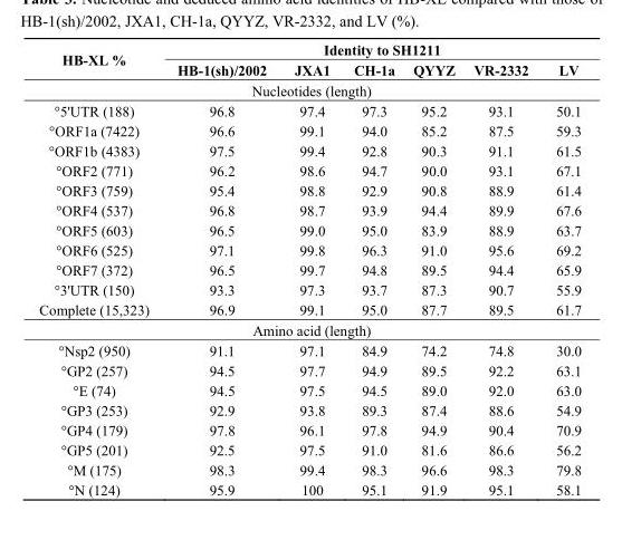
<table><thead><tr><td rowspan="2">HB-XL %</td><td colspan="6">Identity to SH1211</td></tr><tr><td>HB-1(sh)/2002</td><td>JXA1</td><td>CH-1a</td><td>QYYZ</td><td>VR-2332</td><td>LV</td></tr></thead><tbody><tr><td colspan="7">Nucleotides (length)</td></tr><tr><td>°5&#x27;UTR (188)</td><td>96.8</td><td>97.4</td><td>97.3</td><td>95.2</td><td>93.1</td><td>50.1</td></tr><tr><td>°ORF1a (7422)</td><td>96.6</td><td>99.1</td><td>94.0</td><td>85.2</td><td>87.5</td><td>59.3</td></tr><tr><td>°ORF1b (4383)</td><td>97.5</td><td>99.4</td><td>92.8</td><td>90.3</td><td>91.1</td><td>61.5</td></tr><tr><td>°ORF2 (771)</td><td>96.2</td><td>98.6</td><td>94.7</td><td>90.0</td><td>93.1</td><td>67.1</td></tr><tr><td>°ORF3 (759)</td><td>95.4</td><td>98.8</td><td>92.9</td><td>90.8</td><td>88.9</td><td>61.4</td></tr><tr><td>°ORF4 (537)</td><td>96.8</td><td>98.7</td><td>93.9</td><td>94.4</td><td>89.9</td><td>67.6</td></tr><tr><td>°ORF5 (603)</td><td>96.5</td><td>99.0</td><td>95.0</td><td>83.9</td><td>88.9</td><td>63.7</td></tr><tr><td>°ORF6 (525)</td><td>97.1</td><td>99.8</td><td>96.3</td><td>91.0</td><td>95.6</td><td>69.2</td></tr><tr><td>°ORF7 (372)</td><td>96.5</td><td>99.7</td><td>94.8</td><td>89.5</td><td>94.4</td><td>65.9</td></tr><tr><td>°3&#x27;UTR (150)</td><td>93.3</td><td>97.3</td><td>93.7</td><td>87.3</td><td>90.7</td><td>55.9</td></tr><tr><td>Complete (15,323)</td><td>96.9</td><td>99.1</td><td>95.0</td><td>87.7</td><td>89.5</td><td>61.7</td></tr><tr><td colspan="7">Amino acid (length)</td></tr><tr><td>°Nsp2 (950)</td><td>91.1</td><td>97.1</td><td>84.9</td><td>74.2</td><td>74.8</td><td>30.0</td></tr><tr><td>°GP2 (257)</td><td>94.5</td><td>97.7</td><td>94.9</td><td>89.5</td><td>92.2</td><td>63.1</td></tr><tr><td>°E (74)</td><td>94.5</td><td>97.5</td><td>94.5</td><td>89.0</td><td>92.0</td><td>63.0</td></tr><tr><td>°GP3 (253)</td><td>92.9</td><td>93.8</td><td>89.3</td><td>87.4</td><td>88.6</td><td>54.9</td></tr><tr><td>°GP4 (179)</td><td>97.8</td><td>96.1</td><td>97.8</td><td>94.9</td><td>90.4</td><td>70.9</td></tr><tr><td>°GP5 (201)</td><td>92.5</td><td>97.5</td><td>91.0</td><td>81.6</td><td>86.6</td><td>56.2</td></tr><tr><td>°M (175)</td><td>98.3</td><td>99.4</td><td>98.3</td><td>96.6</td><td>98.3</td><td>79.8</td></tr><tr><td>°N (124)</td><td>95.9</td><td>100</td><td>95.1</td><td>91.9</td><td>95.1</td><td>58.1</td></tr></tbody></table>